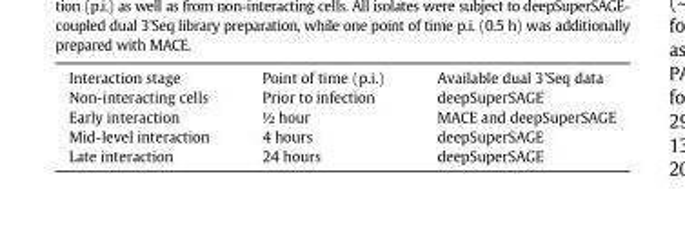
<table><tbody><tr><td>Interaction stage</td><td>Point of time (p.i.)</td><td>Available dual 3&#x27;Seq data</td></tr><tr><td>Non-interacting cells</td><td>Prior to infection</td><td>deepSuperSAGE</td></tr><tr><td>Early interaction</td><td>½ hour</td><td>MACE and deepSuperSAGE</td></tr><tr><td>Mid-level interaction</td><td>4 hours</td><td>deepSuperSAGE</td></tr><tr><td>Late interaction</td><td>24 hours</td><td>deepSuperSAGE</td></tr></tbody></table>